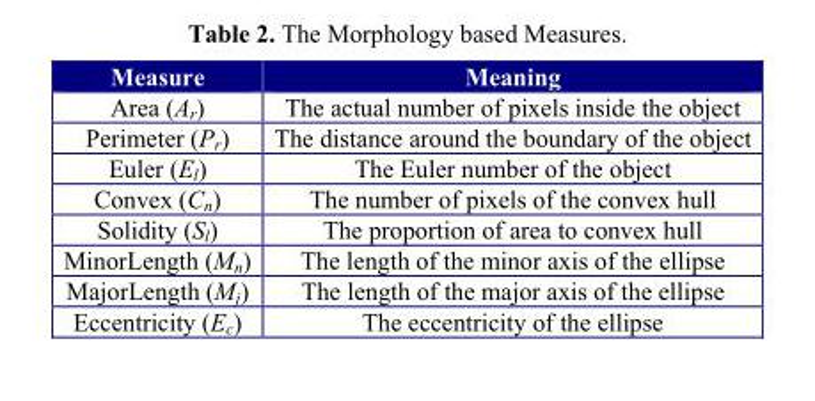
<table><thead><tr><td>Measure</td><td>Meaning</td></tr></thead><tbody><tr><td>Area (A<sub>r</sub>)</td><td>The actual number of pixels inside the object</td></tr><tr><td>Perimeter (P<sub>r</sub>)</td><td>The distance around the boundary of the object</td></tr><tr><td>Euler (E<sub>l</sub>)</td><td>The Euler number of the object</td></tr><tr><td>Convex (C<sub>n</sub>)</td><td>The number of pixels of the convex hull</td></tr><tr><td>Solidity (S<sub>l</sub>)</td><td>The proportion of area to convex hull</td></tr><tr><td>MinorLength (M<sub>n</sub>)</td><td>The length of the minor axis of the ellipse</td></tr><tr><td>MajorLength (M<sub>j</sub>)</td><td>The length of the major axis of the ellipse</td></tr><tr><td>Eccentricity (E<sub>c</sub>)</td><td>The eccentricity of the ellipse</td></tr></tbody></table>